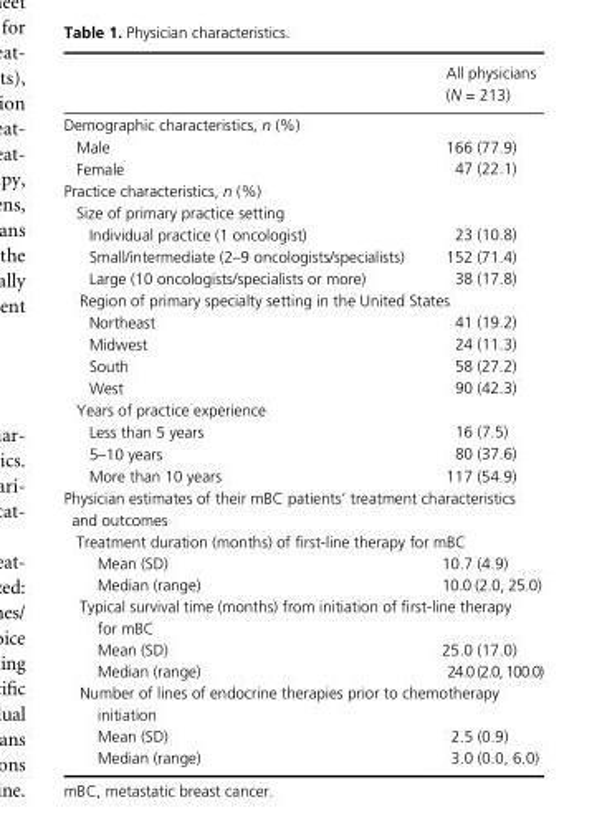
<table><thead><tr><td></td><td>All physicians (N = 213)</td></tr></thead><tbody><tr><td colspan="2">Demographic characteristics, n (%)</td></tr><tr><td>Male</td><td>166 (77.9)</td></tr><tr><td>Female</td><td>47 (22.1)</td></tr><tr><td colspan="2">Practice characteristics, n (%)</td></tr><tr><td colspan="2">Size of primary practice setting</td></tr><tr><td>Individual practice (1 oncologist)</td><td>23 (10.8)</td></tr><tr><td>Small/intermediate (2–9 oncologists/specialists)</td><td>152 (71.4)</td></tr><tr><td>Large (10 oncologists/specialists or more)</td><td>38 (17.8)</td></tr><tr><td colspan="2">Region of primary specialty setting in the United States</td></tr><tr><td>Northeast</td><td>41 (19.2)</td></tr><tr><td>Midwest</td><td>24 (11.3)</td></tr><tr><td>South</td><td>58 (27.2)</td></tr><tr><td>West</td><td>90 (42.3)</td></tr><tr><td colspan="2">Years of practice experience</td></tr><tr><td>Less than 5 years</td><td>16 (7.5)</td></tr><tr><td>5–10 years</td><td>80 (37.6)</td></tr><tr><td>More than 10 years</td><td>117 (54.9)</td></tr><tr><td colspan="2">Physician estimates of their mBC patients’ treatment characteristics and outcomes</td></tr><tr><td colspan="2">Treatment duration (months) of first- line therapy for mBC</td></tr><tr><td>Mean (SD)</td><td>10.7 (4.9)</td></tr><tr><td>Median (range)</td><td>10.0 (2.0, 25.0)</td></tr><tr><td colspan="2">Typical survival time (months) from initiation of first- line therapy for mBC</td></tr><tr><td>Mean (SD)</td><td>25.0 (17.0)</td></tr><tr><td>Median (range)</td><td>24.0 (2.0, 100.0)</td></tr><tr><td colspan="2">Number of lines of endocrine therapies prior to chemotherapy initiation</td></tr><tr><td>Mean (SD)</td><td>2.5 (0.9)</td></tr><tr><td>Median (range)</td><td>3.0 (0.0, 6.0)</td></tr></tbody></table>